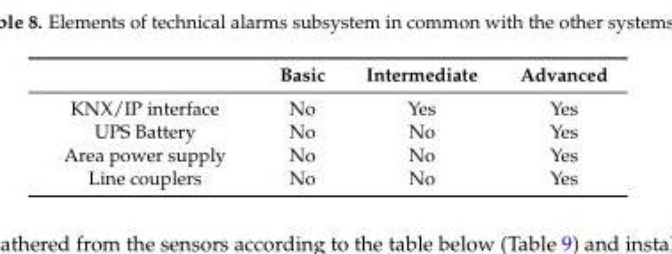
<table><thead><tr><td></td><td>Basic</td><td>Intermediate</td><td>Advanced</td></tr></thead><tbody><tr><td>KNX/IP interface</td><td>No</td><td>Yes</td><td>Yes</td></tr><tr><td>UPS Battery</td><td>No</td><td>No</td><td>Yes</td></tr><tr><td>Area power supply</td><td>No</td><td>No</td><td>Yes</td></tr><tr><td>Line couplers</td><td>No</td><td>No</td><td>Yes</td></tr></tbody></table>